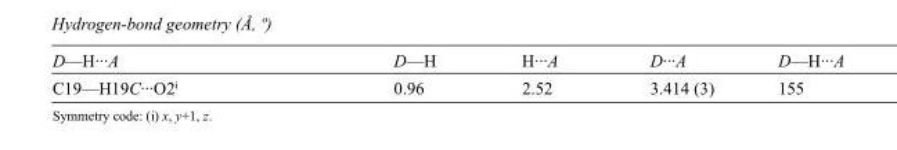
<table><tbody><tr><td>D—H···A</td><td>D—H</td><td>H···A</td><td>D···A</td><td>D—H···A</td></tr><tr><td>C19—H19C···O2<sup>i</sup></td><td>0.96</td><td>2.52</td><td>3.414 (3)</td><td>155</td></tr></tbody></table>